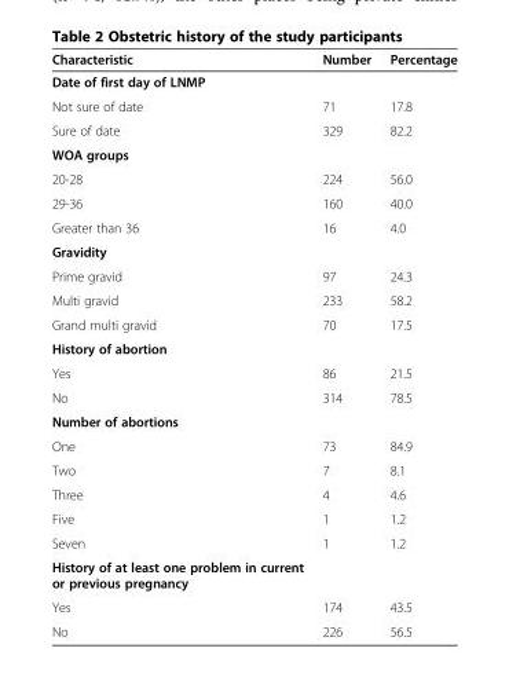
<table><thead><tr><td>Characteristic</td><td>Number</td><td>Percentage</td></tr></thead><tbody><tr><td colspan="3">Date of first day of LNMP</td></tr><tr><td>Not sure of date</td><td>71</td><td>17.8</td></tr><tr><td>Sure of date</td><td>329</td><td>82.2</td></tr><tr><td colspan="3">WOA groups</td></tr><tr><td>20-28</td><td>224</td><td>56.0</td></tr><tr><td>29-36</td><td>160</td><td>40.0</td></tr><tr><td>Greater than 36</td><td>16</td><td>4.0</td></tr><tr><td colspan="3">Gravidity</td></tr><tr><td>Prime gravid</td><td>97</td><td>24.3</td></tr><tr><td>Multi gravid</td><td>233</td><td>58.2</td></tr><tr><td>Grand multi gravid</td><td>70</td><td>17.5</td></tr><tr><td colspan="3">History of abortion</td></tr><tr><td>Yes</td><td>86</td><td>21.5</td></tr><tr><td>No</td><td>314</td><td>78.5</td></tr><tr><td colspan="3">Number of abortions</td></tr><tr><td>One</td><td>73</td><td>84.9</td></tr><tr><td>Two</td><td>7</td><td>8.1</td></tr><tr><td>Three</td><td>4</td><td>4.6</td></tr><tr><td>Five</td><td>1</td><td>1.2</td></tr><tr><td>Seven</td><td>1</td><td>1.2</td></tr><tr><td colspan="3">History of at least one problem in current or previous pregnancy</td></tr><tr><td>Yes</td><td>174</td><td>43.5</td></tr><tr><td>No</td><td>226</td><td>56.5</td></tr></tbody></table>